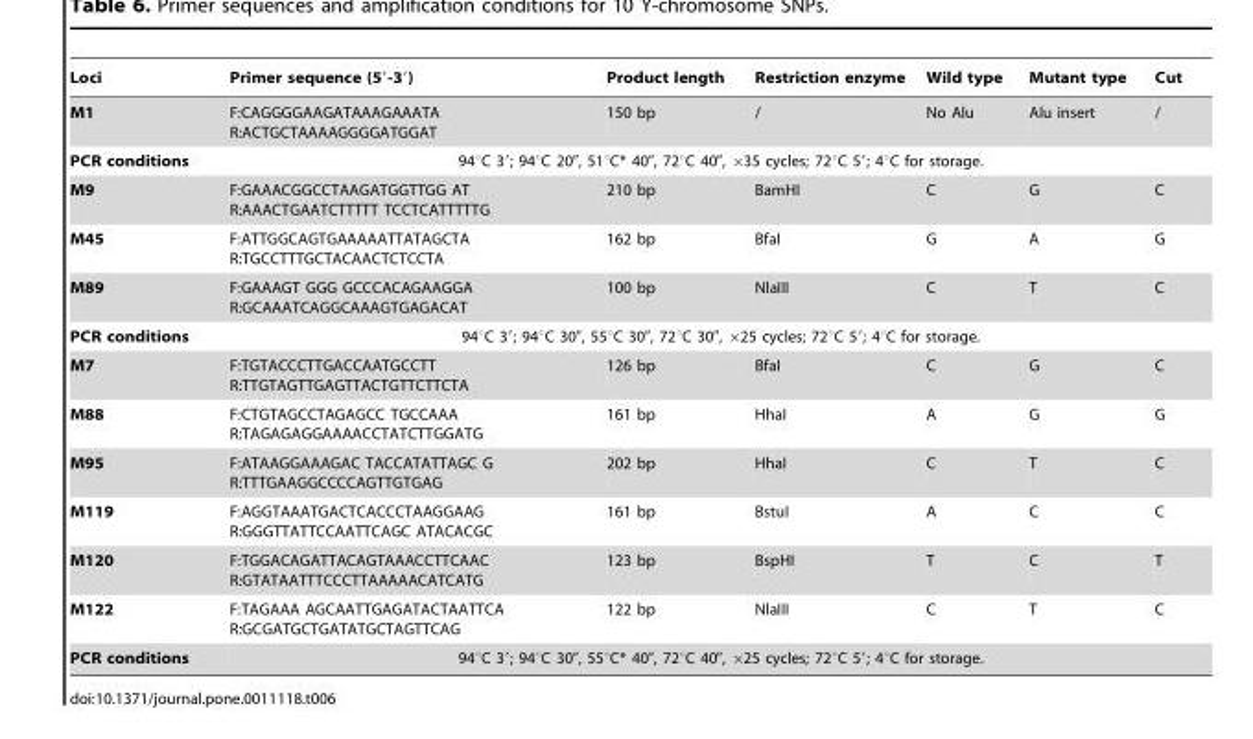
<table><thead><tr><td>Loci</td><td>Primer sequence (5′-3′)</td><td>Product length</td><td>Restriction enzyme</td><td>Wild type</td><td>Mutant type</td><td>Cut</td></tr></thead><tbody><tr><td>M1</td><td>F:CAGGGGAAGATAAAGAAATA R:ACTGCTAAAAGGGGATGGAT</td><td>150 bp</td><td>/</td><td>No Alu</td><td>Alu insert</td><td>/</td></tr><tr><td>PCR conditions</td><td colspan="6">94°C 3′; 94°C 20″, 51°C* 40″, 72°C 40″, ×35 cycles; 72°C 5′; 4°C for storage.</td></tr><tr><td>M9</td><td>F:GAAACGGCCTAAGATGGTTGG AT R:AAACTGAATCTTTTT TCCTCATTTTTG</td><td>210 bp</td><td>BamHI</td><td>C</td><td>G</td><td>C</td></tr><tr><td>M45</td><td>F:ATTGGCAGTGAAAAATTATAGCTA R:TGCCTTTGCTACAACTCTCCTA</td><td>162 bp</td><td>BfaI</td><td>G</td><td>A</td><td>G</td></tr><tr><td>M89</td><td>F:GAAAGT GGG GCCCACAGAAGGA R:GCAAATCAGGCAAAGTGAGACAT</td><td>100 bp</td><td>NlaIII</td><td>C</td><td>T</td><td>C</td></tr><tr><td>PCR conditions</td><td colspan="6">94°C 3′; 94°C 30″, 55°C 30″, 72°C 30″, ×25 cycles; 72°C 5′; 4°C for storage.</td></tr><tr><td>M7</td><td>F:TGTACCCTTGACCAATGCCTT R:TTGTAGTTGAGTTACTGTTCTTCTA</td><td>126 bp</td><td>BfaI</td><td>C</td><td>G</td><td>C</td></tr><tr><td>M88</td><td>F:CTGTAGCCTAGAGCC TGCCAAA R:TAGAGAGGAAAACCTATCTTGGATG</td><td>161 bp</td><td>HhaI</td><td>A</td><td>G</td><td>G</td></tr><tr><td>M95</td><td>F:ATAAGGAAAGAC TACCATATTAGC G R:TTTGAAGGCCCCAGTTGTGAG</td><td>202 bp</td><td>HhaI</td><td>C</td><td>T</td><td>C</td></tr><tr><td>M119</td><td>F:AGGTAAATGACTCACCCTAAGGAAG R:GGGTTATTCCAATTCAGC ATACACGC</td><td>161 bp</td><td>BstuI</td><td>A</td><td>C</td><td>C</td></tr><tr><td>M120</td><td>F:TGGACAGATTACAGTAAACCTTCAAC R:GTATAATTTCCCTTAAAAACATCATG</td><td>123 bp</td><td>BspHI</td><td>T</td><td>C</td><td>T</td></tr><tr><td>M122</td><td>F:TAGAAA AGCAATTGAGATACTAATTCA R:GCGATGCTGATATGCTAGTTCAG</td><td>122 bp</td><td>NlaIII</td><td>C</td><td>T</td><td>C</td></tr><tr><td>PCR conditions</td><td colspan="6">94°C 3′; 94°C 30″, 55°C* 40″, 72°C 40″, ×25 cycles; 72°C 5′; 4°C for storage.</td></tr></tbody></table>